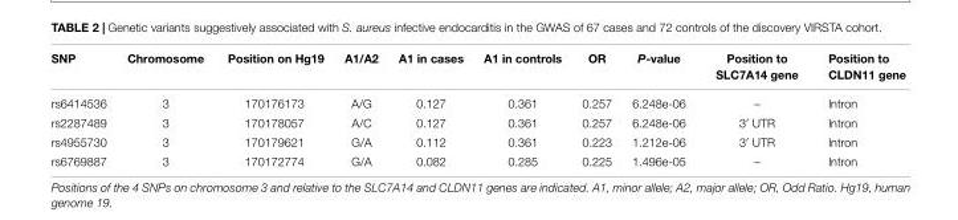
<table><thead><tr><td>SNP</td><td>Chromosome</td><td>Position on Hg19</td><td>A1/A2</td><td>A1 in cases</td><td>A1 in controls</td><td>OR</td><td>P-value</td><td>Position to SLC7A14 gene</td><td>Position to CLDN11 gene</td></tr></thead><tbody><tr><td>rs6414536</td><td>3</td><td>170176173</td><td>A/G</td><td>0.127</td><td>0.361</td><td>0.257</td><td>6.248e-06</td><td>–</td><td>Intron</td></tr><tr><td>rs2287489</td><td>3</td><td>170178057</td><td>A/C</td><td>0.127</td><td>0.361</td><td>0.257</td><td>6.248e-06</td><td>3′ UTR</td><td>Intron</td></tr><tr><td>rs4955730</td><td>3</td><td>170179621</td><td>G/A</td><td>0.112</td><td>0.361</td><td>0.223</td><td>1.212e-06</td><td>3′ UTR</td><td>Intron</td></tr><tr><td>rs6769887</td><td>3</td><td>170172774</td><td>G/A</td><td>0.082</td><td>0.285</td><td>0.225</td><td>1.496e-05</td><td>–</td><td>Intron</td></tr></tbody></table>